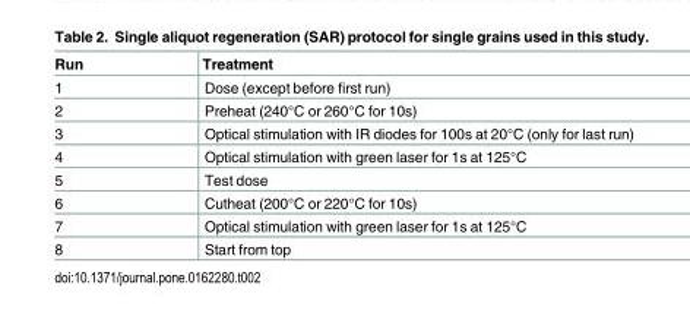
<table><thead><tr><td>Run</td><td>Treatment</td></tr></thead><tbody><tr><td>1</td><td>Dose (except before first run)</td></tr><tr><td>2</td><td>Preheat (240°C or 260°C for 10s)</td></tr><tr><td>3</td><td>Optical stimulation with IR diodes for 100s at 20°C (only for last run)</td></tr><tr><td>4</td><td>Optical stimulation with green laser for 1s at 125°C</td></tr><tr><td>5</td><td>Test dose</td></tr><tr><td>6</td><td>Cutheat (200°C or 220°C for 10s)</td></tr><tr><td>7</td><td>Optical stimulation with green laser for 1s at 125°C</td></tr><tr><td>8</td><td>Start from top</td></tr></tbody></table>